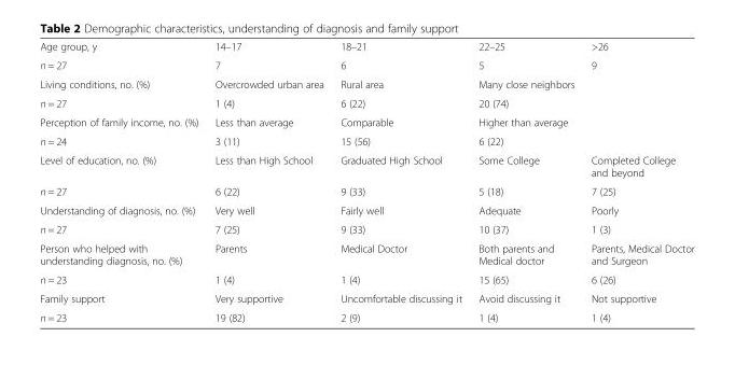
<table><tbody><tr><td>Age group, y</td><td>14–17</td><td>18–21</td><td>22–25</td><td>&gt;26</td></tr><tr><td>n = 27</td><td>7</td><td>6</td><td>5</td><td>9</td></tr><tr><td>Living conditions, no. (%)</td><td>Overcrowded urban area</td><td>Rural area</td><td>Many close neighbors</td><td></td></tr><tr><td>n = 27</td><td>1 (4)</td><td>6 (22)</td><td>20 (74)</td><td></td></tr><tr><td>Perception of family income, no. (%)</td><td>Less than average</td><td>Comparable</td><td>Higher than average</td><td></td></tr><tr><td>n = 24</td><td>3 (11)</td><td>15 (56)</td><td>6 (22)</td><td></td></tr><tr><td>Level of education, no. (%)</td><td>Less than High School</td><td>Graduated High School</td><td>Some College</td><td>Completed College and beyond</td></tr><tr><td>n = 27</td><td>6 (22)</td><td>9 (33)</td><td>5 (18)</td><td>7 (25)</td></tr><tr><td>Understanding of diagnosis, no. (%)</td><td>Very well</td><td>Fairly well</td><td>Adequate</td><td>Poorly</td></tr><tr><td>n = 27</td><td>7 (25)</td><td>9 (33)</td><td>10 (37)</td><td>1 (3)</td></tr><tr><td>Person who helped with understanding diagnosis, no. (%)</td><td>Parents</td><td>Medical Doctor</td><td>Both parents and Medical doctor</td><td>Parents, Medical Doctor and Surgeon</td></tr><tr><td>n = 23</td><td>1 (4)</td><td>1 (4)</td><td>15 (65)</td><td>6 (26)</td></tr><tr><td>Family support</td><td>Very supportive</td><td>Uncomfortable discussing it</td><td>Avoid discussing it</td><td>Not supportive</td></tr><tr><td>n = 23</td><td>19 (82)</td><td>2 (9)</td><td>1 (4)</td><td>1 (4)</td></tr></tbody></table>